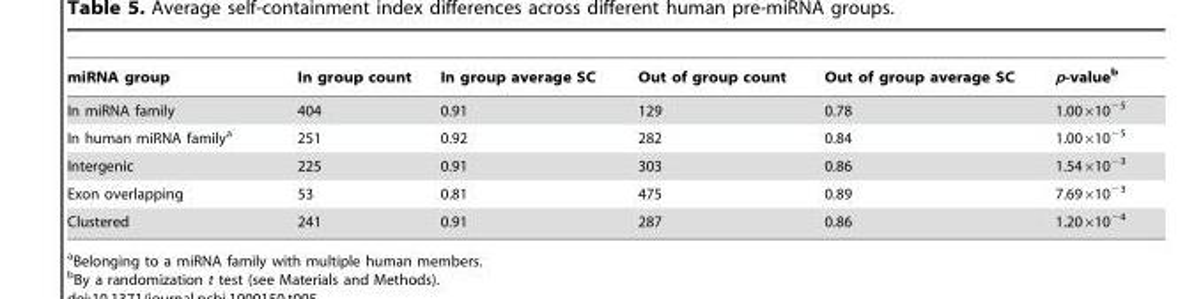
<table><thead><tr><td>miRNA group</td><td>In group count</td><td>In group average SC</td><td>Out of group count</td><td>Out of group average SC</td><td>p-value<sup>b</sup></td></tr></thead><tbody><tr><td>In miRNA family</td><td>404</td><td>0.91</td><td>129</td><td>0.78</td><td>1.00×10<sup>−5</sup></td></tr><tr><td>In human miRNA family<sup>a</sup></td><td>251</td><td>0.92</td><td>282</td><td>0.84</td><td>1.00×10<sup>−5</sup></td></tr><tr><td>Intergenic</td><td>225</td><td>0.91</td><td>303</td><td>0.86</td><td>1.54×10<sup>−3</sup></td></tr><tr><td>Exon overlapping</td><td>53</td><td>0.81</td><td>475</td><td>0.89</td><td>7.69×10<sup>−3</sup></td></tr><tr><td>Clustered</td><td>241</td><td>0.91</td><td>287</td><td>0.86</td><td>1.20×10<sup>−4</sup></td></tr></tbody></table>